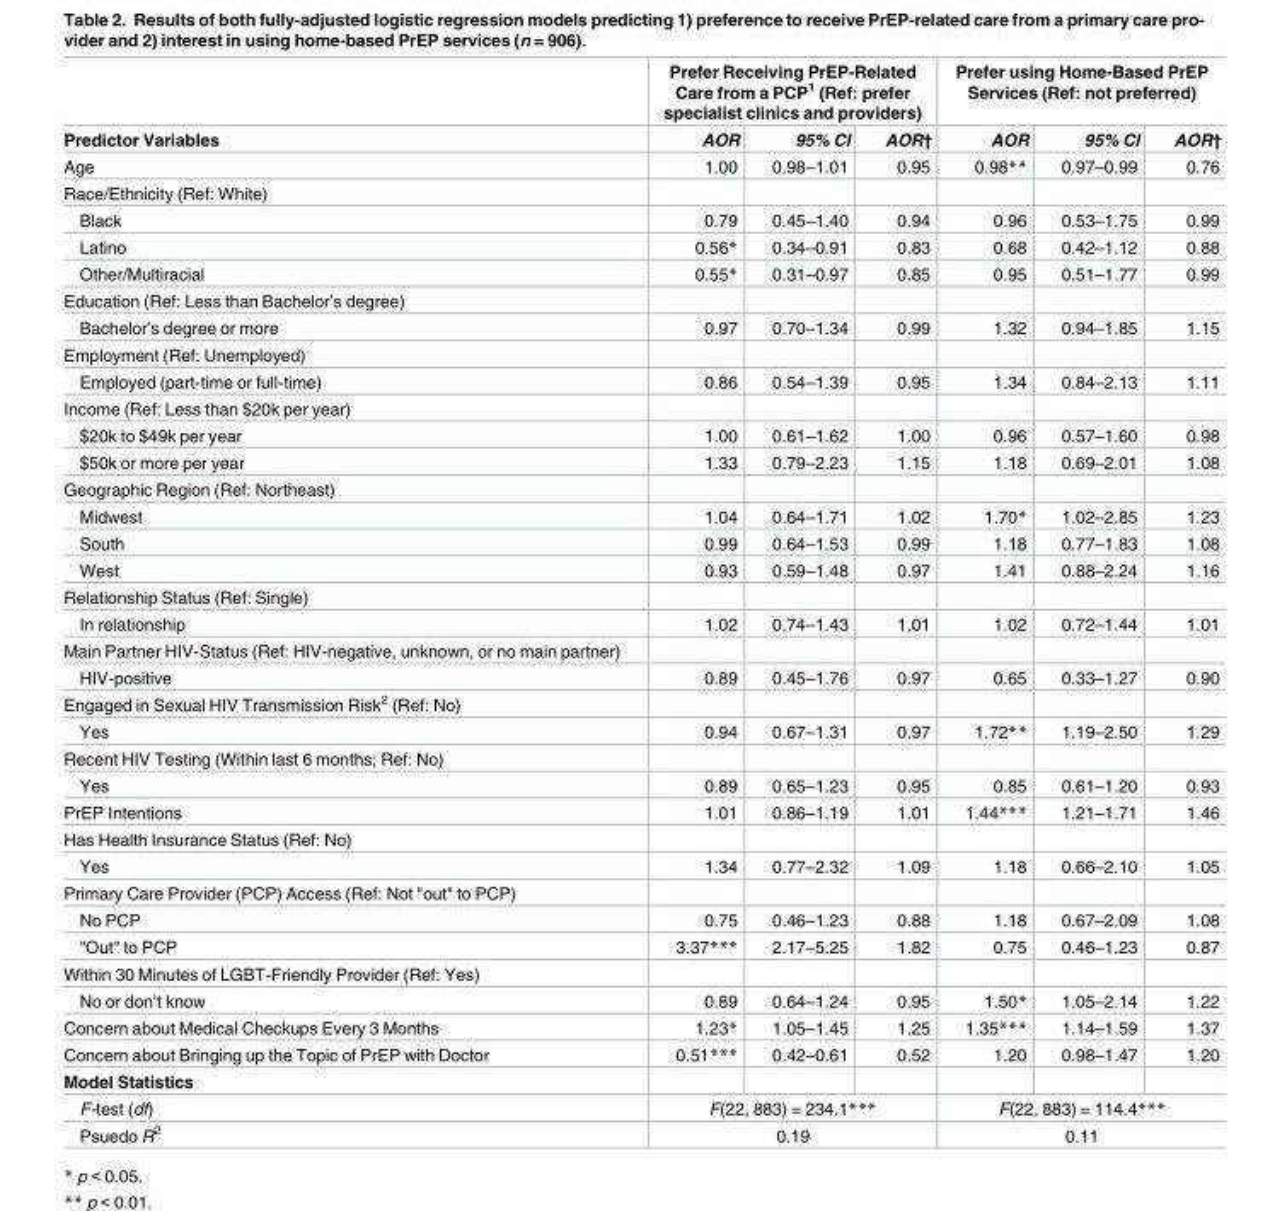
<table><thead><tr><td rowspan="2">Predictor Variables</td><td colspan="3">Prefer Receiving PrEP-Related Care from a PCP<sup>1</sup> (Ref: prefer specialist clinics and providers)</td><td colspan="3">Prefer using Home-Based PrEP Services (Ref: not preferred)</td></tr><tr><td>AOR</td><td>95% CI</td><td>AOR†</td><td>AOR</td><td>95% CI</td><td>AOR†</td></tr></thead><tbody><tr><td>Age</td><td>1.00</td><td>0.98–1.01</td><td>0.95</td><td>0.98**</td><td>0.97–0.99</td><td>0.76</td></tr><tr><td colspan="7">Race/Ethnicity (Ref: White)</td></tr><tr><td>Black</td><td>0.79</td><td>0.45–1.40</td><td>0.94</td><td>0.96</td><td>0.53–1.75</td><td>0.99</td></tr><tr><td>Latino</td><td>0.56*</td><td>0.34–0.91</td><td>0.83</td><td>0.68</td><td>0.42–1.12</td><td>0.88</td></tr><tr><td>Other/Multiracial</td><td>0.55*</td><td>0.31–0.97</td><td>0.85</td><td>0.95</td><td>0.51–1.77</td><td>0.99</td></tr><tr><td colspan="7">Education (Ref: Less than Bachelor’s degree)</td></tr><tr><td>Bachelor’s degree or more</td><td>0.97</td><td>0.70–1.34</td><td>0.99</td><td>1.32</td><td>0.94–1.85</td><td>1.15</td></tr><tr><td colspan="7">Employment (Ref: Unemployed)</td></tr><tr><td>Employed (part-time or full-time)</td><td>0.86</td><td>0.54–1.39</td><td>0.95</td><td>1.34</td><td>0.84–2.13</td><td>1.11</td></tr><tr><td colspan="7">Income (Ref: Less than $20k per year)</td></tr><tr><td>$20k to $49k per year</td><td>1.00</td><td>0.61–1.62</td><td>1.00</td><td>0.96</td><td>0.57–1.60</td><td>0.98</td></tr><tr><td>$50k or more per year</td><td>1.33</td><td>0.79–2.23</td><td>1.15</td><td>1.18</td><td>0.69–2.01</td><td>1.08</td></tr><tr><td colspan="7">Geographic Region (Ref: Northeast)</td></tr><tr><td>Midwest</td><td>1.04</td><td>0.64–1.71</td><td>1.02</td><td>1.70*</td><td>1.02–2.85</td><td>1.23</td></tr><tr><td>South</td><td>0.99</td><td>0.64–1.53</td><td>0.99</td><td>1.18</td><td>0.77–1.83</td><td>1.08</td></tr><tr><td>West</td><td>0.93</td><td>0.59–1.48</td><td>0.97</td><td>1.41</td><td>0.88–2.24</td><td>1.16</td></tr><tr><td colspan="7">Relationship Status (Ref: Single)</td></tr><tr><td>In relationship</td><td>1.02</td><td>0.74–1.43</td><td>1.01</td><td>1.02</td><td>0.72–1.44</td><td>1.01</td></tr><tr><td colspan="7">Main Partner HIV-Status (Ref: HIV-negative, unknown, or no main partner)</td></tr><tr><td>HIV-positive</td><td>0.89</td><td>0.45–1.76</td><td>0.97</td><td>0.65</td><td>0.33–1.27</td><td>0.90</td></tr><tr><td colspan="7">Engaged in Sexual HIV Transmission Risk<sup>2</sup> (Ref: No)</td></tr><tr><td>Yes</td><td>0.94</td><td>0.67–1.31</td><td>0.97</td><td>1.72**</td><td>1.19–2.50</td><td>1.29</td></tr><tr><td colspan="7">Recent HIV Testing (Within last 6 months; Ref: No)</td></tr><tr><td>Yes</td><td>0.89</td><td>0.65–1.23</td><td>0.95</td><td>0.85</td><td>0.61–1.20</td><td>0.93</td></tr><tr><td>PrEP Intentions</td><td>1.01</td><td>0.86–1.19</td><td>1.01</td><td>1.44***</td><td>1.21–1.71</td><td>1.46</td></tr><tr><td colspan="7">Has Health Insurance Status (Ref: No)</td></tr><tr><td>Yes</td><td>1.34</td><td>0.77–2.32</td><td>1.09</td><td>1.18</td><td>0.66–2.10</td><td>1.05</td></tr><tr><td colspan="7">Primary Care Provider (PCP) Access (Ref: Not &quot;out&quot; to PCP)</td></tr><tr><td>No PCP</td><td>0.75</td><td>0.46–1.23</td><td>0.88</td><td>1.18</td><td>0.67–2.09</td><td>1.08</td></tr><tr><td>&quot;Out&quot; to PCP</td><td>3.37***</td><td>2.17–5.25</td><td>1.82</td><td>0.75</td><td>0.46–1.23</td><td>0.87</td></tr><tr><td colspan="7">Within 30 Minutes of LGBT-Friendly Provider (Ref: Yes)</td></tr><tr><td>No or don’t know</td><td>0.89</td><td>0.64–1.24</td><td>0.95</td><td>1.50*</td><td>1.05–2.14</td><td>1.22</td></tr><tr><td>Concern about Medical Checkups Every 3 Months</td><td>1.23*</td><td>1.05–1.45</td><td>1.25</td><td>1.35***</td><td>1.14–1.59</td><td>1.37</td></tr><tr><td>Concern about Bringing up the Topic of PrEP with Doctor</td><td>0.51***</td><td>0.42–0.61</td><td>0.52</td><td>1.20</td><td>0.98–1.47</td><td>1.20</td></tr><tr><td colspan="7">Model Statistics</td></tr><tr><td>F-test (df)</td><td colspan="3">F(22, 883) = 234.1***</td><td colspan="3">F(22, 883) = 114.4***</td></tr><tr><td>Psuedo R<sup>2</sup></td><td colspan="3">0.19</td><td colspan="3">0.11</td></tr></tbody></table>